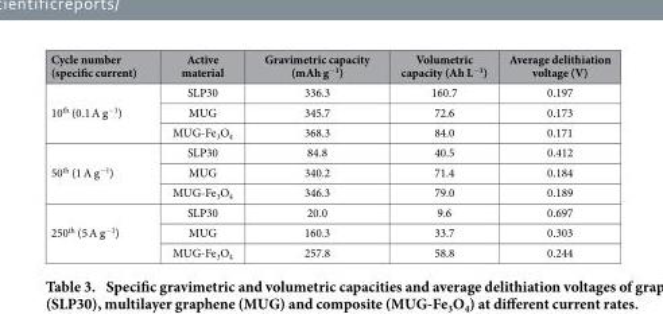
<table><thead><tr><td>Cycle number (specific current)</td><td>Active material</td><td>Gravimetric capacity (mAh g<sup>−1</sup>)</td><td>Volumetric capacity (Ah L<sup>−1</sup>)</td><td>Average delithiation voltage (V)</td></tr></thead><tbody><tr><td rowspan="3">10<sup>th</sup> (0.1 A g<sup>−1</sup>)</td><td>SLP30</td><td>336.3</td><td>160.7</td><td>0.197</td></tr><tr><td>MUG</td><td>345.7</td><td>72.6</td><td>0.173</td></tr><tr><td>MUG-Fe<sub>3</sub>O<sub>4</sub></td><td>368.3</td><td>84.0</td><td>0.171</td></tr><tr><td rowspan="3">50<sup>th</sup> (1 A g<sup>−1</sup>)</td><td>SLP30</td><td>84.8</td><td>40.5</td><td>0.412</td></tr><tr><td>MUG</td><td>340.2</td><td>71.4</td><td>0.184</td></tr><tr><td>MUG-Fe<sub>3</sub>O<sub>4</sub></td><td>346.3</td><td>79.0</td><td>0.189</td></tr><tr><td rowspan="3">250<sup>th</sup> (5 A g<sup>−1</sup>)</td><td>SLP30</td><td>20.0</td><td>9.6</td><td>0.697</td></tr><tr><td>MUG</td><td>160.3</td><td>33.7</td><td>0.303</td></tr><tr><td>MUG-Fe<sub>3</sub>O<sub>4</sub></td><td>257.8</td><td>58.8</td><td>0.244</td></tr></tbody></table>